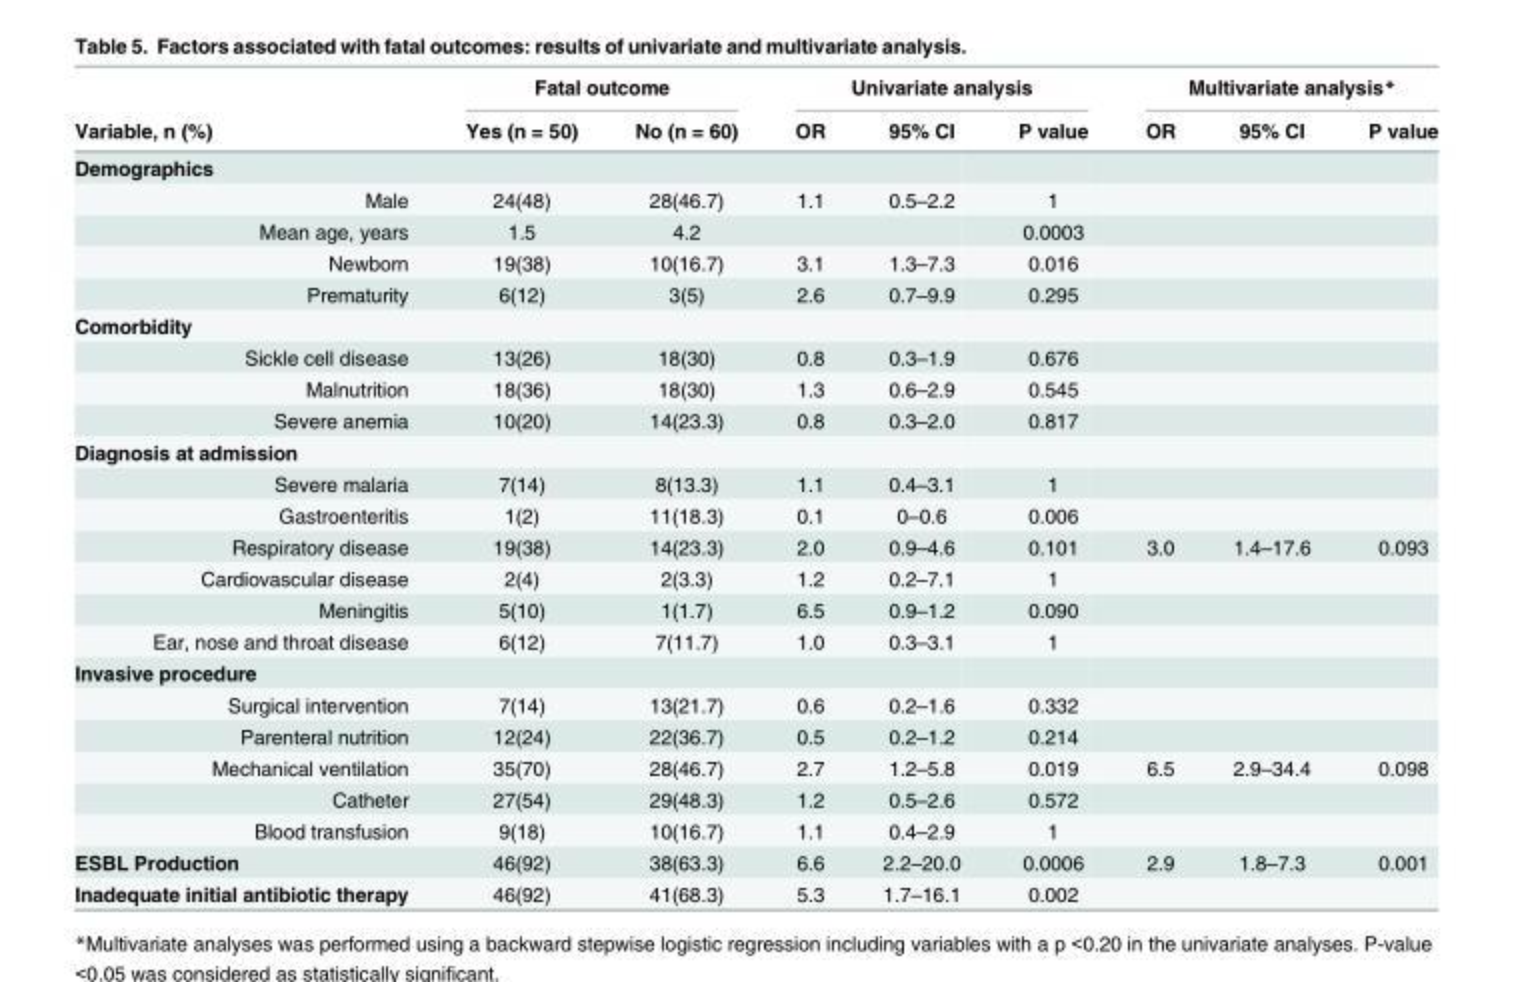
<table><thead><tr><td rowspan="2">Variable, n (%)</td><td colspan="2">Fatal outcome</td><td colspan="3">Univariate analysis</td><td colspan="3">Multivariate analysis*</td></tr><tr><td>Yes (n = 50)</td><td>No (n = 60)</td><td>OR</td><td>95% CI</td><td>P value</td><td>OR</td><td>95% CI</td><td>P value</td></tr></thead><tbody><tr><td colspan="9">Demographics</td></tr><tr><td>Male</td><td>24(48)</td><td>28(46.7)</td><td>1.1</td><td>0.5–2.2</td><td>1</td><td></td><td></td><td></td></tr><tr><td>Mean age, years</td><td>1.5</td><td>4.2</td><td></td><td></td><td>0.0003</td><td></td><td></td><td></td></tr><tr><td>Newborn</td><td>19(38)</td><td>10(16.7)</td><td>3.1</td><td>1.3–7.3</td><td>0.016</td><td></td><td></td><td></td></tr><tr><td>Prematurity</td><td>6(12)</td><td>3(5)</td><td>2.6</td><td>0.7–9.9</td><td>0.295</td><td></td><td></td><td></td></tr><tr><td colspan="9">Comorbidity</td></tr><tr><td>Sickle cell disease</td><td>13(26)</td><td>18(30)</td><td>0.8</td><td>0.3–1.9</td><td>0.676</td><td></td><td></td><td></td></tr><tr><td>Malnutrition</td><td>18(36)</td><td>18(30)</td><td>1.3</td><td>0.6–2.9</td><td>0.545</td><td></td><td></td><td></td></tr><tr><td>Severe anemia</td><td>10(20)</td><td>14(23.3)</td><td>0.8</td><td>0.3–2.0</td><td>0.817</td><td></td><td></td><td></td></tr><tr><td colspan="9">Diagnosis at admission</td></tr><tr><td>Severe malaria</td><td>7(14)</td><td>8(13.3)</td><td>1.1</td><td>0.4–3.1</td><td>1</td><td></td><td></td><td></td></tr><tr><td>Gastroenteritis</td><td>1(2)</td><td>11(18.3)</td><td>0.1</td><td>0–0.6</td><td>0.006</td><td></td><td></td><td></td></tr><tr><td>Respiratory disease</td><td>19(38)</td><td>14(23.3)</td><td>2.0</td><td>0.9–4.6</td><td>0.101</td><td>3.0</td><td>1.4–17.6</td><td>0.093</td></tr><tr><td>Cardiovascular disease</td><td>2(4)</td><td>2(3.3)</td><td>1.2</td><td>0.2–7.1</td><td>1</td><td></td><td></td><td></td></tr><tr><td>Meningitis</td><td>5(10)</td><td>1(1.7)</td><td>6.5</td><td>0.9–1.2</td><td>0.090</td><td></td><td></td><td></td></tr><tr><td>Ear, nose and throat disease</td><td>6(12)</td><td>7(11.7)</td><td>1.0</td><td>0.3–3.1</td><td>1</td><td></td><td></td><td></td></tr><tr><td colspan="9">Invasive procedure</td></tr><tr><td>Surgical intervention</td><td>7(14)</td><td>13(21.7)</td><td>0.6</td><td>0.2–1.6</td><td>0.332</td><td></td><td></td><td></td></tr><tr><td>Parenteral nutrition</td><td>12(24)</td><td>22(36.7)</td><td>0.5</td><td>0.2–1.2</td><td>0.214</td><td></td><td></td><td></td></tr><tr><td>Mechanical ventilation</td><td>35(70)</td><td>28(46.7)</td><td>2.7</td><td>1.2–5.8</td><td>0.019</td><td>6.5</td><td>2.9–34.4</td><td>0.098</td></tr><tr><td>Catheter</td><td>27(54)</td><td>29(48.3)</td><td>1.2</td><td>0.5–2.6</td><td>0.572</td><td></td><td></td><td></td></tr><tr><td>Blood transfusion</td><td>9(18)</td><td>10(16.7)</td><td>1.1</td><td>0.4–2.9</td><td>1</td><td></td><td></td><td></td></tr><tr><td>ESBL Production</td><td>46(92)</td><td>38(63.3)</td><td>6.6</td><td>2.2–20.0</td><td>0.0006</td><td>2.9</td><td>1.8–7.3</td><td>0.001</td></tr><tr><td>Inadequate initial antibiotic therapy</td><td>46(92)</td><td>41(68.3)</td><td>5.3</td><td>1.7–16.1</td><td>0.002</td><td></td><td></td><td></td></tr></tbody></table>